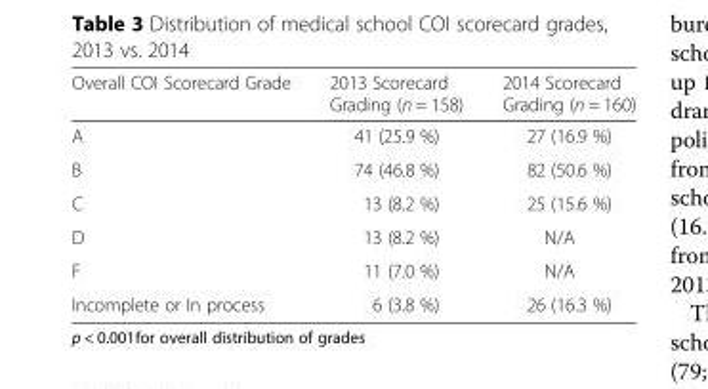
<table><thead><tr><td>Overall COI Scorecard Grade</td><td>2013 Scorecard Grading (n = 158)</td><td>2014 Scorecard Grading (n = 160)</td></tr></thead><tbody><tr><td>A</td><td>41 (25.9 %)</td><td>27 (16.9 %)</td></tr><tr><td>B</td><td>74 (46.8 %)</td><td>82 (50.6 %)</td></tr><tr><td>C</td><td>13 (8.2 %)</td><td>25 (15.6 %)</td></tr><tr><td>D</td><td>13 (8.2 %)</td><td>N/A</td></tr><tr><td>F</td><td>11 (7.0 %)</td><td>N/A</td></tr><tr><td>Incomplete or In process</td><td>6 (3.8 %)</td><td>26 (16.3 %)</td></tr></tbody></table>